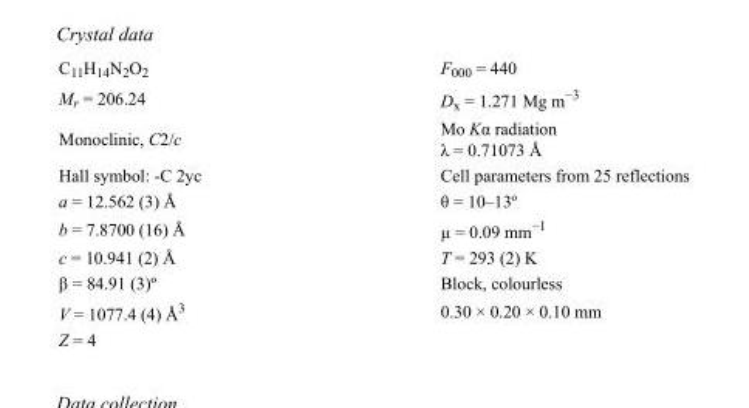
<table><tbody><tr><td>C<sub>11</sub>H<sub>14</sub>N<sub>2</sub>O<sub>2</sub></td><td>F000 = 440</td></tr><tr><td>M<sub>r</sub> = 206.24</td><td>D<sub>x</sub> = 1.271 Mg m<sup>−3</sup></td></tr><tr><td>Monoclinic, C2/c</td><td>Mo Kα radiation λ = 0.71073 Å</td></tr><tr><td>Hall symbol: -C 2yc</td><td>Cell parameters from 25 reflections</td></tr><tr><td>a = 12.562 (3) Å</td><td>θ = 10–13º</td></tr><tr><td>b = 7.8700 (16) Å</td><td>µ = 0.09 mm<sup>−1</sup></td></tr><tr><td>c = 10.941 (2) Å</td><td>T = 293 (2) K</td></tr><tr><td>β = 84.91 (3)º</td><td>Block, colourless</td></tr><tr><td>V = 1077.4 (4) Å<sup>3</sup></td><td>0.30 × 0.20 × 0.10 mm</td></tr><tr><td>Z = 4</td><td></td></tr></tbody></table>